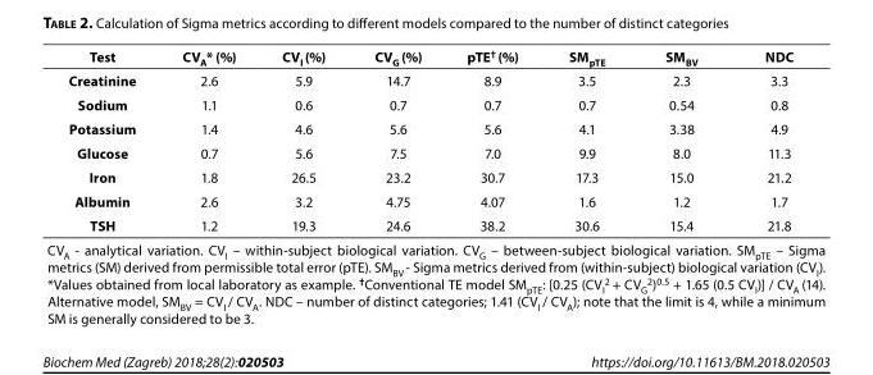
<table><thead><tr><td>Test</td><td>CV<sub>A</sub>* (%)</td><td>CV<sub>I</sub> (%)</td><td>CV<sub>G</sub> (%)</td><td>pTE<sup>†</sup> (%)</td><td>SM<sub>pTE</sub></td><td>SM<sub>BV</sub></td><td>NDC</td></tr></thead><tbody><tr><td>Creatinine</td><td>2.6</td><td>5.9</td><td>14.7</td><td>8.9</td><td>3.5</td><td>2.3</td><td>3.3</td></tr><tr><td>Sodium</td><td>1.1</td><td>0.6</td><td>0.7</td><td>0.7</td><td>0.7</td><td>0.54</td><td>0.8</td></tr><tr><td>Potassium</td><td>1.4</td><td>4.6</td><td>5.6</td><td>5.6</td><td>4.1</td><td>3.38</td><td>4.9</td></tr><tr><td>Glucose</td><td>0.7</td><td>5.6</td><td>7.5</td><td>7.0</td><td>9.9</td><td>8.0</td><td>11.3</td></tr><tr><td>Iron</td><td>1.8</td><td>26.5</td><td>23.2</td><td>30.7</td><td>17.3</td><td>15.0</td><td>21.2</td></tr><tr><td>Albumin</td><td>2.6</td><td>3.2</td><td>4.75</td><td>4.07</td><td>1.6</td><td>1.2</td><td>1.7</td></tr><tr><td>TSH</td><td>1.2</td><td>19.3</td><td>24.6</td><td>38.2</td><td>30.6</td><td>15.4</td><td>21.8</td></tr><tr><td colspan="8">CV<sub>A</sub> - analytical variation. CV<sub>I</sub> – within-subject biological variation. CV<sub>G</sub> – between-subject biological variation. SM<sub>pTE</sub> – Sigma metrics (SM) derived from permissible total error (pTE). SM<sub>BV</sub> - Sigma metrics derived from (within-subject) biological variation (CV<sub>I</sub>). *Values obtained from local laboratory as example. <sup>†</sup>Conventional TE model SM<sub>pTE</sub>: [0.25 (CV<sub>I</sub> <sup>2</sup> + CV<sub>G</sub> <sup>2</sup>)<sup>0.5</sup> + 1.65 (0.5 CV<sub>I</sub>)] / CV<sub>A</sub> (14). Alternative model, SM<sub>BV</sub> = CV<sub>I</sub> / CV<sub>A</sub>. NDC – number of distinct categories; 1.41 (CV<sub>I</sub> / CV<sub>A</sub>); note that the limit is 4, while a minimum SM is generally considered to be 3.</td></tr></tbody></table>